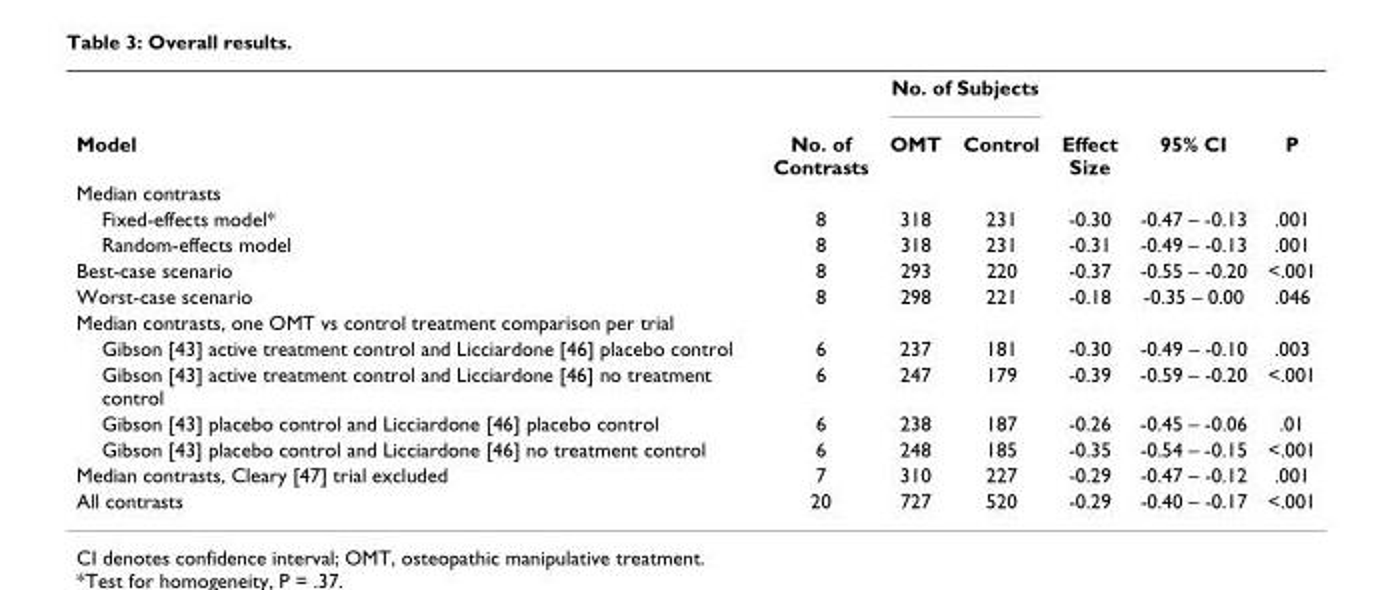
<table><thead><tr><td rowspan="2">Model</td><td rowspan="2">No. of Contrasts</td><td colspan="2">No. of Subjects</td><td rowspan="2">Effect Size</td><td rowspan="2">95% CI</td><td rowspan="2">P</td></tr><tr><td>OMT</td><td>Control</td></tr></thead><tbody><tr><td colspan="7">Median contrasts</td></tr><tr><td>Fixed-effects model*</td><td>8</td><td>318</td><td>231</td><td>-0.30</td><td>-0.47 – -0.13</td><td>.001</td></tr><tr><td>Random-effects model</td><td>8</td><td>318</td><td>231</td><td>-0.31</td><td>-0.49 – -0.13</td><td>.001</td></tr><tr><td>Best-case scenario</td><td>8</td><td>293</td><td>220</td><td>-0.37</td><td>-0.55 – -0.20</td><td>&lt;.001</td></tr><tr><td>Worst-case scenario</td><td>8</td><td>298</td><td>221</td><td>-0.18</td><td>-0.35 – 0.00</td><td>.046</td></tr><tr><td colspan="7">Median contrasts, one OMT vs control treatment comparison per trial</td></tr><tr><td>Gibson [43] active treatment control and Licciardone [46] placebo control</td><td>6</td><td>237</td><td>181</td><td>-0.30</td><td>-0.49 – -0.10</td><td>.003</td></tr><tr><td>Gibson [43] active treatment control and Licciardone [46] no treatment control</td><td>6</td><td>247</td><td>179</td><td>-0.39</td><td>-0.59 – -0.20</td><td>&lt;.001</td></tr><tr><td>Gibson [43] placebo control and Licciardone [46] placebo control</td><td>6</td><td>238</td><td>187</td><td>-0.26</td><td>-0.45 – -0.06</td><td>.01</td></tr><tr><td>Gibson [43] placebo control and Licciardone [46] no treatment control</td><td>6</td><td>248</td><td>185</td><td>-0.35</td><td>-0.54 – -0.15</td><td>&lt;.001</td></tr><tr><td>Median contrasts, Cleary [47] trial excluded</td><td>7</td><td>310</td><td>227</td><td>-0.29</td><td>-0.47 – -0.12</td><td>.001</td></tr><tr><td>All contrasts</td><td>20</td><td>727</td><td>520</td><td>-0.29</td><td>-0.40 – -0.17</td><td>&lt;.001</td></tr></tbody></table>